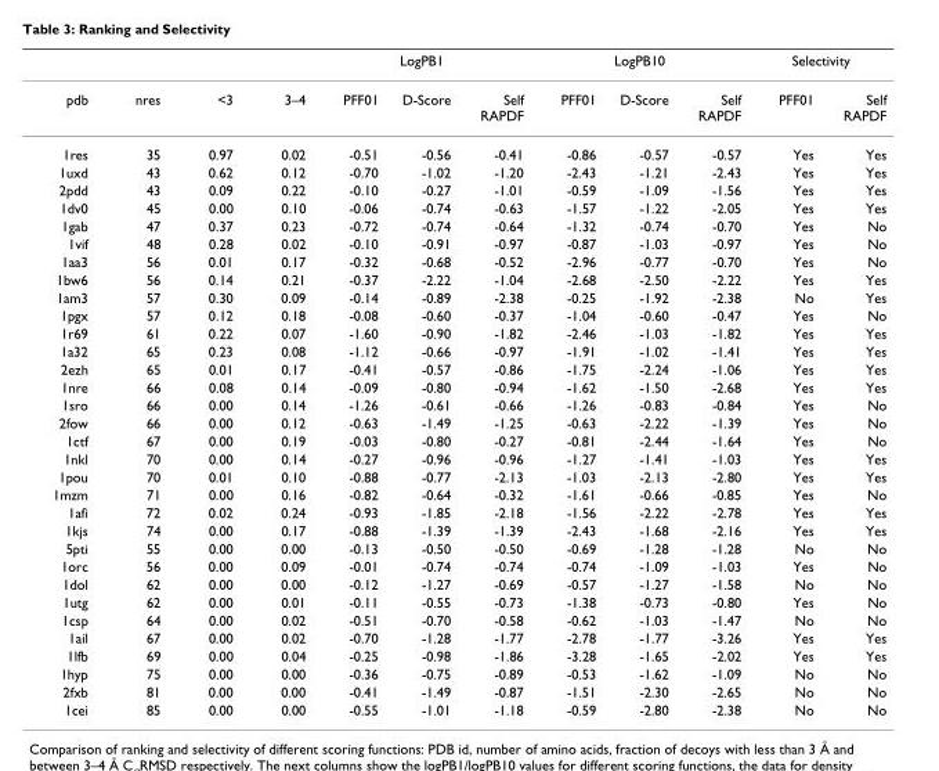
<table><thead><tr><td rowspan="2">pdb</td><td rowspan="2">nres</td><td rowspan="2">&lt;3</td><td rowspan="2">3–4</td><td colspan="3">LogPB1</td><td colspan="3">LogPB10</td><td colspan="2">Selectivity</td></tr><tr><td>PFF01</td><td>D-Score</td><td>Self RAPDF</td><td>PFF01</td><td>D-Score</td><td>Self RAPDF</td><td>PFF01</td><td>Self RAPDF</td></tr></thead><tbody><tr><td>1res</td><td>35</td><td>0.97</td><td>0.02</td><td>-0.51</td><td>-0.56</td><td>-0.41</td><td>-0.86</td><td>-0.57</td><td>-0.57</td><td>Yes</td><td>Yes</td></tr><tr><td>1uxd</td><td>43</td><td>0.62</td><td>0.12</td><td>-0.70</td><td>-1.02</td><td>-1.20</td><td>-2.43</td><td>-1.21</td><td>-2.43</td><td>Yes</td><td>Yes</td></tr><tr><td>2pdd</td><td>43</td><td>0.09</td><td>0.22</td><td>-0.10</td><td>-0.27</td><td>-1.01</td><td>-0.59</td><td>-1.09</td><td>-1.56</td><td>Yes</td><td>Yes</td></tr><tr><td>1dv0</td><td>45</td><td>0.00</td><td>0.10</td><td>-0.06</td><td>-0.74</td><td>-0.63</td><td>-1.57</td><td>-1.22</td><td>-2.05</td><td>Yes</td><td>Yes</td></tr><tr><td>1gab</td><td>47</td><td>0.37</td><td>0.23</td><td>-0.72</td><td>-0.74</td><td>-0.64</td><td>-1.32</td><td>-0.74</td><td>-0.70</td><td>Yes</td><td>No</td></tr><tr><td>1vif</td><td>48</td><td>0.28</td><td>0.02</td><td>-0.10</td><td>-0.91</td><td>-0.97</td><td>-0.87</td><td>-1.03</td><td>-0.97</td><td>Yes</td><td>No</td></tr><tr><td>1aa3</td><td>56</td><td>0.01</td><td>0.17</td><td>-0.32</td><td>-0.68</td><td>-0.52</td><td>-2.96</td><td>-0.77</td><td>-0.70</td><td>Yes</td><td>No</td></tr><tr><td>1bw6</td><td>56</td><td>0.14</td><td>0.21</td><td>-0.37</td><td>-2.22</td><td>-1.04</td><td>-2.68</td><td>-2.50</td><td>-2.22</td><td>Yes</td><td>Yes</td></tr><tr><td>1am3</td><td>57</td><td>0.30</td><td>0.09</td><td>-0.14</td><td>-0.89</td><td>-2.38</td><td>-0.25</td><td>-1.92</td><td>-2.38</td><td>No</td><td>Yes</td></tr><tr><td>1pgx</td><td>57</td><td>0.12</td><td>0.18</td><td>-0.08</td><td>-0.60</td><td>-0.37</td><td>-1.04</td><td>-0.60</td><td>-0.47</td><td>Yes</td><td>No</td></tr><tr><td>1r69</td><td>61</td><td>0.22</td><td>0.07</td><td>-1.60</td><td>-0.90</td><td>-1.82</td><td>-2.46</td><td>-1.03</td><td>-1.82</td><td>Yes</td><td>Yes</td></tr><tr><td>1a32</td><td>65</td><td>0.23</td><td>0.08</td><td>-1.12</td><td>-0.66</td><td>-0.97</td><td>-1.91</td><td>-1.02</td><td>-1.41</td><td>Yes</td><td>Yes</td></tr><tr><td>2ezh</td><td>65</td><td>0.01</td><td>0.17</td><td>-0.41</td><td>-0.57</td><td>-0.86</td><td>-1.75</td><td>-2.24</td><td>-1.06</td><td>Yes</td><td>Yes</td></tr><tr><td>1nre</td><td>66</td><td>0.08</td><td>0.14</td><td>-0.09</td><td>-0.80</td><td>-0.94</td><td>-1.62</td><td>-1.50</td><td>-2.68</td><td>Yes</td><td>Yes</td></tr><tr><td>1sro</td><td>66</td><td>0.00</td><td>0.14</td><td>-1.26</td><td>-0.61</td><td>-0.66</td><td>-1.26</td><td>-0.83</td><td>-0.84</td><td>Yes</td><td>No</td></tr><tr><td>2fow</td><td>66</td><td>0.00</td><td>0.12</td><td>-0.63</td><td>-1.49</td><td>-1.25</td><td>-0.63</td><td>-2.22</td><td>-1.39</td><td>Yes</td><td>No</td></tr><tr><td>1ctf</td><td>67</td><td>0.00</td><td>0.19</td><td>-0.03</td><td>-0.80</td><td>-0.27</td><td>-0.81</td><td>-2.44</td><td>-1.64</td><td>Yes</td><td>No</td></tr><tr><td>1nkl</td><td>70</td><td>0.00</td><td>0.14</td><td>-0.27</td><td>-0.96</td><td>-0.96</td><td>-1.27</td><td>-1.41</td><td>-1.03</td><td>Yes</td><td>Yes</td></tr><tr><td>1pou</td><td>70</td><td>0.01</td><td>0.10</td><td>-0.88</td><td>-0.77</td><td>-2.13</td><td>-1.03</td><td>-2.13</td><td>-2.80</td><td>Yes</td><td>Yes</td></tr><tr><td>1mzm</td><td>71</td><td>0.00</td><td>0.16</td><td>-0.82</td><td>-0.64</td><td>-0.32</td><td>-1.61</td><td>-0.66</td><td>-0.85</td><td>Yes</td><td>No</td></tr><tr><td>1afi</td><td>72</td><td>0.02</td><td>0.24</td><td>-0.93</td><td>-1.85</td><td>-2.18</td><td>-1.56</td><td>-2.22</td><td>-2.78</td><td>Yes</td><td>Yes</td></tr><tr><td>1kjs</td><td>74</td><td>0.00</td><td>0.17</td><td>-0.88</td><td>-1.39</td><td>-1.39</td><td>-2.43</td><td>-1.68</td><td>-2.16</td><td>Yes</td><td>Yes</td></tr><tr><td>5pti</td><td>55</td><td>0.00</td><td>0.00</td><td>-0.13</td><td>-0.50</td><td>-0.50</td><td>-0.69</td><td>-1.28</td><td>-1.28</td><td>No</td><td>No</td></tr><tr><td>1orc</td><td>56</td><td>0.00</td><td>0.09</td><td>-0.01</td><td>-0.74</td><td>-0.74</td><td>-0.74</td><td>-1.09</td><td>-1.03</td><td>Yes</td><td>No</td></tr><tr><td>1dol</td><td>62</td><td>0.00</td><td>0.00</td><td>-0.12</td><td>-1.27</td><td>-0.69</td><td>-0.57</td><td>-1.27</td><td>-1.58</td><td>No</td><td>No</td></tr><tr><td>1utg</td><td>62</td><td>0.00</td><td>0.01</td><td>-0.11</td><td>-0.55</td><td>-0.73</td><td>-1.38</td><td>-0.73</td><td>-0.80</td><td>Yes</td><td>No</td></tr><tr><td>1csp</td><td>64</td><td>0.00</td><td>0.02</td><td>-0.51</td><td>-0.70</td><td>-0.58</td><td>-0.62</td><td>-1.03</td><td>-1.47</td><td>No</td><td>No</td></tr><tr><td>1ail</td><td>67</td><td>0.00</td><td>0.02</td><td>-0.70</td><td>-1.28</td><td>-1.77</td><td>-2.78</td><td>-1.77</td><td>-3.26</td><td>Yes</td><td>Yes</td></tr><tr><td>1lfb</td><td>69</td><td>0.00</td><td>0.04</td><td>-0.25</td><td>-0.98</td><td>-1.86</td><td>-3.28</td><td>-1.65</td><td>-2.02</td><td>Yes</td><td>Yes</td></tr><tr><td>1hyp</td><td>75</td><td>0.00</td><td>0.00</td><td>-0.36</td><td>-0.75</td><td>-0.89</td><td>-0.53</td><td>-1.62</td><td>-1.09</td><td>No</td><td>No</td></tr><tr><td>2fxb</td><td>81</td><td>0.00</td><td>0.00</td><td>-0.41</td><td>-1.49</td><td>-0.87</td><td>-1.51</td><td>-2.30</td><td>-2.65</td><td>No</td><td>No</td></tr><tr><td>1cei</td><td>85</td><td>0.00</td><td>0.00</td><td>-0.55</td><td>-1.01</td><td>-1.18</td><td>-0.59</td><td>-2.80</td><td>-2.38</td><td>No</td><td>No</td></tr></tbody></table>